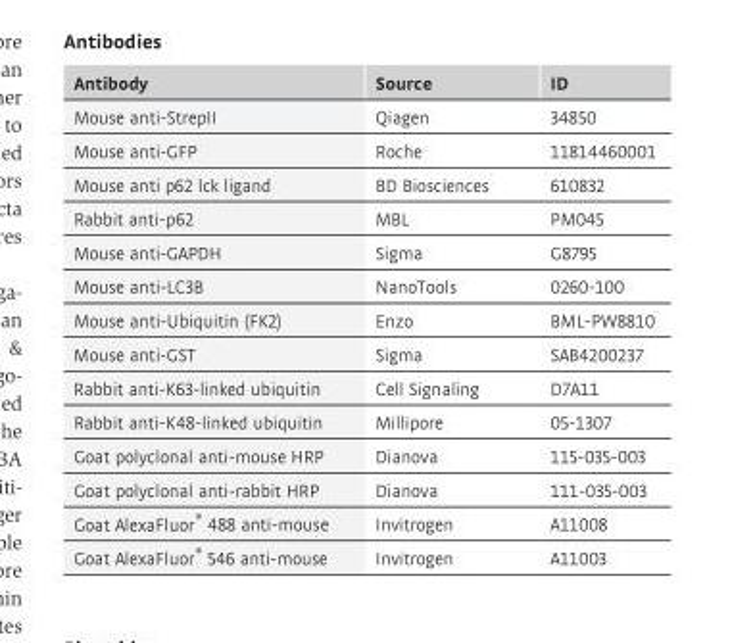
<table><thead><tr><td>Antibody</td><td>Source</td><td>ID</td></tr></thead><tbody><tr><td>Mouse anti-StrepII</td><td>Qiagen</td><td>34850</td></tr><tr><td>Mouse anti-GFP</td><td>Roche</td><td>11814460001</td></tr><tr><td>Mouse anti p62 lck ligand</td><td>BD Biosciences</td><td>610832</td></tr><tr><td>Rabbit anti-p62</td><td>MBL</td><td>PM045</td></tr><tr><td>Mouse anti-GAPDH</td><td>Sigma</td><td>G8795</td></tr><tr><td>Mouse anti-LC3B</td><td>NanoTools</td><td>0260-100</td></tr><tr><td>Mouse anti-Ubiquitin (FK2)</td><td>Enzo</td><td>BML-PW8810</td></tr><tr><td>Mouse anti-GST</td><td>Sigma</td><td>SAB4200237</td></tr><tr><td>Rabbit anti-K63-linked ubiquitin</td><td>Cell Signaling</td><td>D7A11</td></tr><tr><td>Rabbit anti-K48-linked ubiquitin</td><td>Millipore</td><td>05-1307</td></tr><tr><td>Goat polyclonal anti-mouse HRP</td><td>Dianova</td><td>115-035-003</td></tr><tr><td>Goat polyclonal anti-rabbit HRP</td><td>Dianova</td><td>111-035-003</td></tr><tr><td>Goat AlexaFluor<sup>®</sup> 488 anti-mouse</td><td>Invitrogen</td><td>A11008</td></tr><tr><td>Goat AlexaFluor<sup>®</sup> 546 anti-mouse</td><td>Invitrogen</td><td>A11003</td></tr></tbody></table>